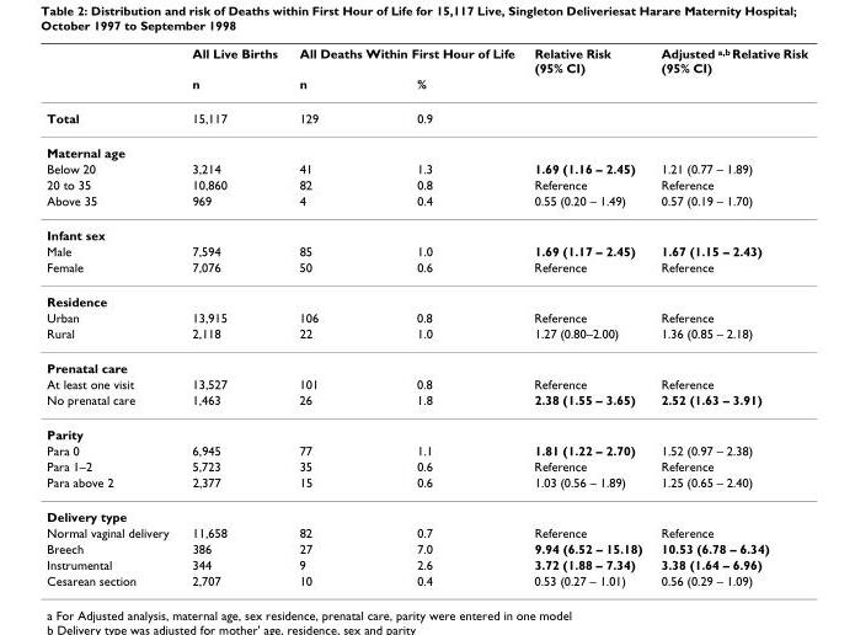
<table><thead><tr><td rowspan="2"></td><td rowspan="2">All Live Births n</td><td colspan="2">All Deaths Within First Hour of Life</td><td rowspan="2">Relative Risk (95% CI)</td><td rowspan="2">Adjusted <sup>a,b</sup> Relative Risk (95% CI)</td></tr><tr><td>n</td><td>%</td></tr></thead><tbody><tr><td>Total</td><td>15,117</td><td>129</td><td>0.9</td><td></td><td></td></tr><tr><td colspan="6">Maternal age</td></tr><tr><td>Below 20</td><td>3,214</td><td>41</td><td>1.3</td><td>1.69 (1.16 – 2.45)</td><td>1.21 (0.77 – 1.89)</td></tr><tr><td>20 to 35</td><td>10,860</td><td>82</td><td>0.8</td><td>Reference</td><td>Reference</td></tr><tr><td>Above 35</td><td>969</td><td>4</td><td>0.4</td><td>0.55 (0.20 – 1.49)</td><td>0.57 (0.19 – 1.70)</td></tr><tr><td colspan="6">Infant sex</td></tr><tr><td>Male</td><td>7,594</td><td>85</td><td>1.0</td><td>1.69 (1.17 – 2.45)</td><td>1.67 (1.15 – 2.43)</td></tr><tr><td>Female</td><td>7,076</td><td>50</td><td>0.6</td><td>Reference</td><td>Reference</td></tr><tr><td colspan="6">Residence</td></tr><tr><td>Urban</td><td>13,915</td><td>106</td><td>0.8</td><td>Reference</td><td>Reference</td></tr><tr><td>Rural</td><td>2,118</td><td>22</td><td>1.0</td><td>1.27 (0.80–2.00)</td><td>1.36 (0.85 – 2.18)</td></tr><tr><td colspan="6">Prenatal care</td></tr><tr><td>At least one visit</td><td>13,527</td><td>101</td><td>0.8</td><td>Reference</td><td>Reference</td></tr><tr><td>No prenatal care</td><td>1,463</td><td>26</td><td>1.8</td><td>2.38 (1.55 – 3.65)</td><td>2.52 (1.63 – 3.91)</td></tr><tr><td colspan="6">Parity</td></tr><tr><td>Para 0</td><td>6,945</td><td>77</td><td>1.1</td><td>1.81 (1.22 – 2.70)</td><td>1.52 (0.97 – 2.38)</td></tr><tr><td>Para 1–2</td><td>5,723</td><td>35</td><td>0.6</td><td>Reference</td><td>Reference</td></tr><tr><td>Para above 2</td><td>2,377</td><td>15</td><td>0.6</td><td>1.03 (0.56 – 1.89)</td><td>1.25 (0.65 – 2.40)</td></tr><tr><td colspan="6">Delivery type</td></tr><tr><td>Normal vaginal delivery</td><td>11,658</td><td>82</td><td>0.7</td><td>Reference</td><td>Reference</td></tr><tr><td>Breech</td><td>386</td><td>27</td><td>7.0</td><td>9.94 (6.52 – 15.18)</td><td>10.53 (6.78 – 6.34)</td></tr><tr><td>Instrumental</td><td>344</td><td>9</td><td>2.6</td><td>3.72 (1.88 – 7.34)</td><td>3.38 (1.64 – 6.96)</td></tr><tr><td>Cesarean section</td><td>2,707</td><td>10</td><td>0.4</td><td>0.53 (0.27 – 1.01)</td><td>0.56 (0.29 – 1.09)</td></tr></tbody></table>